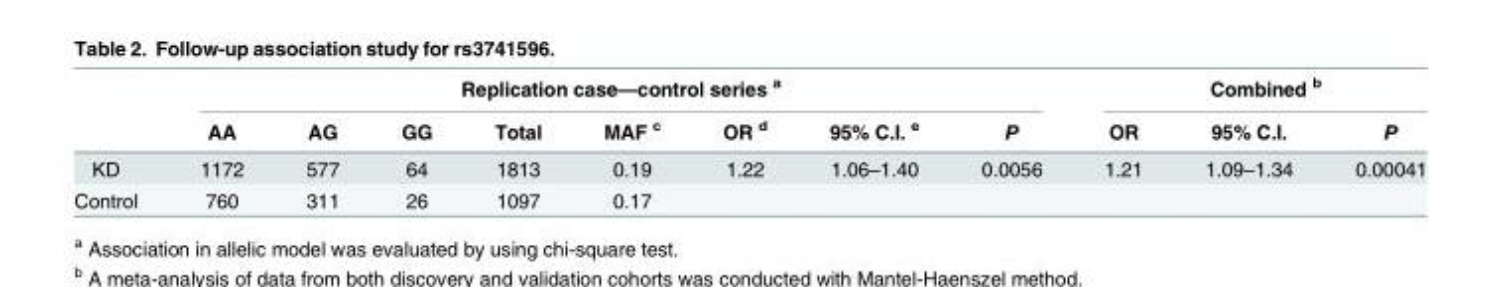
<table><thead><tr><td rowspan="2"></td><td colspan="8">Replication case—control series <sup>a</sup></td><td colspan="3">Combined <sup>b</sup></td></tr><tr><td>AA</td><td>AG</td><td>GG</td><td>Total</td><td>MAF <sup>c</sup></td><td>OR <sup>d</sup></td><td>95% C.I. <sup>e</sup></td><td>P</td><td>OR</td><td>95% C.I.</td><td>P</td></tr></thead><tbody><tr><td>KD</td><td>1172</td><td>577</td><td>64</td><td>1813</td><td>0.19</td><td>1.22</td><td>1.06–1.40</td><td>0.0056</td><td>1.21</td><td>1.09–1.34</td><td>0.00041</td></tr><tr><td>Control</td><td>760</td><td>311</td><td>26</td><td>1097</td><td>0.17</td><td></td><td></td><td></td><td></td><td></td><td></td></tr></tbody></table>